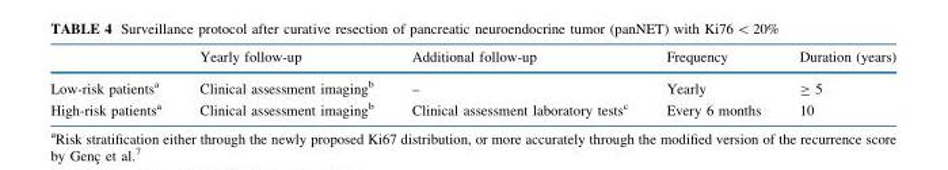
<table><thead><tr><td></td><td>Yearly follow-up</td><td>Additional follow-up</td><td>Frequency</td><td>Duration (years)</td></tr></thead><tbody><tr><td>Low-risk patients<sup>a</sup></td><td>Clinical assessment imaging<sup>b</sup></td><td>–</td><td>Yearly</td><td>≥ 5</td></tr><tr><td>High-risk patients<sup>a</sup></td><td>Clinical assessment imaging<sup>b</sup></td><td>Clinical assessment laboratory tests<sup>c</sup></td><td>Every 6 months</td><td>10</td></tr></tbody></table>